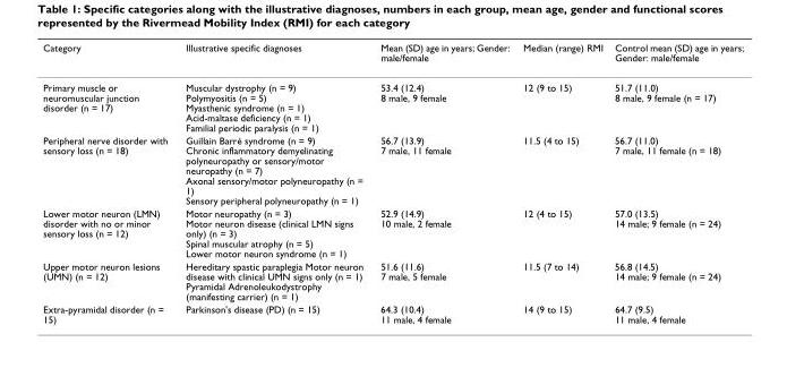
<table><thead><tr><td>Category</td><td>Illustrative specific diagnoses</td><td>Mean (SD) age in years; Gender: male/female</td><td>Median (range) RMI</td><td>Control mean (SD) age in years; Gender: male/female</td></tr></thead><tbody><tr><td>Primary muscle or neuromuscular junction disorder (n = 17)</td><td>Muscular dystrophy (n = 9) Polymyositis (n = 5) Myasthenic syndrome (n = 1) Acid-maltase deficiency (n = 1) Familial periodic paralysis (n = 1)</td><td>53.4 (12.4) 8 male, 9 female</td><td>12 (9 to 15)</td><td>51.7 (11.0) 8 male, 9 female (n = 17)</td></tr><tr><td>Peripheral nerve disorder with sensory loss (n = 18)</td><td>Guillain Barré syndrome (n = 9) Chronic inflammatory demyelinating polyneuropathy or sensory/motor neuropathy (n = 7) Axonal sensory/motor polyneuropathy (n = 1) Sensory peripheral polyneuropathy (n = 1)</td><td>56.7 (13.9) 7 male, 11 female</td><td>11.5 (4 to 15)</td><td>56.7 (11.0) 7 male, 11 female (n = 18)</td></tr><tr><td>Lower motor neuron (LMN) disorder with no or minor sensory loss (n = 12)</td><td>Motor neuropathy (n = 3) Motor neuron disease (clinical LMN signs only) (n = 3) Spinal muscular atrophy (n = 5) Lower motor neuron syndrome (n = 1)</td><td>52.9 (14.9) 10 male, 2 female</td><td>12 (4 to 15)</td><td>57.0 (13.5) 14 male; 9 female (n = 24)</td></tr><tr><td>Upper motor neuron lesions (UMN) (n = 12)</td><td>Hereditary spastic paraplegia Motor neuron disease with clinical UMN signs only (n = 1) Pyramidal Adrenoleukodystrophy (manifesting carrier) (n = 1)</td><td>51.6 (11.6) 7 male, 5 female</td><td>11.5 (7 to 14)</td><td>56.8 (14.5) 14 male; 9 female (n = 24)</td></tr><tr><td>Extra-pyramidal disorder (n = 15)</td><td>Parkinson&#x27;s disease (PD) (n = 15)</td><td>64.3 (10.4) 11 male, 4 female</td><td>14 (9 to 15)</td><td>64.7 (9.5) 11 male, 4 female</td></tr></tbody></table>